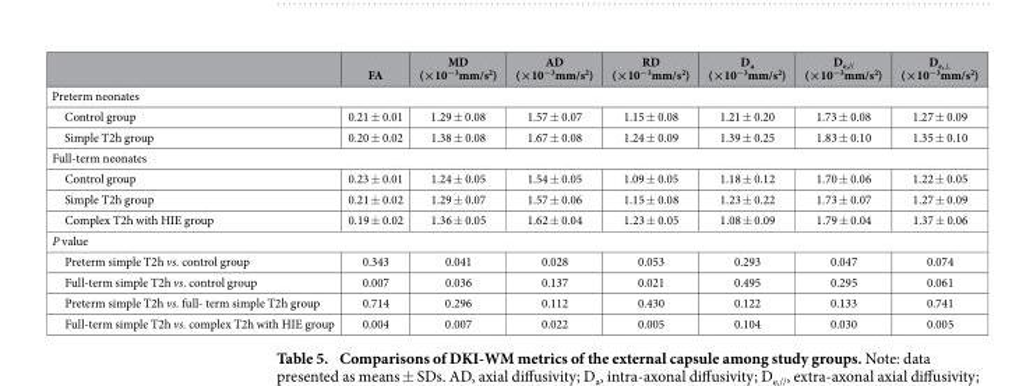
<table><thead><tr><td></td><td>FA</td><td>MD (×10<sup>−3</sup>mm/s<sup>2</sup>)</td><td>AD (×10<sup>−3</sup>mm/s<sup>2</sup>)</td><td>RD (×10<sup>−3</sup>mm/s<sup>2</sup>)</td><td>D<sub>a</sub> (×10<sup>−3</sup>mm/s<sup>2</sup>)</td><td>D<sub>e,//</sub> (×10<sup>−3</sup>mm/s<sup>2</sup>)</td><td>D<sub>e,⊥</sub> (×10<sup>−3</sup>mm/s<sup>2</sup>)</td></tr></thead><tbody><tr><td colspan="8">Preterm neonates</td></tr><tr><td>Control group</td><td>0.21 ± 0.01</td><td>1.29 ± 0.08</td><td>1.57 ± 0.07</td><td>1.15 ± 0.08</td><td>1.21 ± 0.20</td><td>1.73 ± 0.08</td><td>1.27 ± 0.09</td></tr><tr><td>Simple T2h group</td><td>0.20 ± 0.02</td><td>1.38 ± 0.08</td><td>1.67 ± 0.08</td><td>1.24 ± 0.09</td><td>1.39 ± 0.25</td><td>1.83 ± 0.10</td><td>1.35 ± 0.10</td></tr><tr><td colspan="8">Full-term neonates</td></tr><tr><td>Control group</td><td>0.23 ± 0.01</td><td>1.24 ± 0.05</td><td>1.54 ± 0.05</td><td>1.09 ± 0.05</td><td>1.18 ± 0.12</td><td>1.70 ± 0.06</td><td>1.22 ± 0.05</td></tr><tr><td>Simple T2h group</td><td>0.21 ± 0.02</td><td>1.29 ± 0.07</td><td>1.57 ± 0.06</td><td>1.15 ± 0.08</td><td>1.23 ± 0.22</td><td>1.73 ± 0.07</td><td>1.27 ± 0.09</td></tr><tr><td>Complex T2h with HIE group</td><td>0.19 ± 0.02</td><td>1.36 ± 0.05</td><td>1.62 ± 0.04</td><td>1.23 ± 0.05</td><td>1.08 ± 0.09</td><td>1.79 ± 0.04</td><td>1.37 ± 0.06</td></tr><tr><td colspan="8">P value</td></tr><tr><td>Preterm simple T2h vs. control group</td><td>0.343</td><td>0.041</td><td>0.028</td><td>0.053</td><td>0.293</td><td>0.047</td><td>0.074</td></tr><tr><td>Full-term simple T2h vs. control group</td><td>0.007</td><td>0.036</td><td>0.137</td><td>0.021</td><td>0.495</td><td>0.295</td><td>0.061</td></tr><tr><td>Preterm simple T2h vs. full- term simple T2h group</td><td>0.714</td><td>0.296</td><td>0.112</td><td>0.430</td><td>0.122</td><td>0.133</td><td>0.741</td></tr><tr><td>Full-term simple T2h vs. complex T2h with HIE group</td><td>0.004</td><td>0.007</td><td>0.022</td><td>0.005</td><td>0.104</td><td>0.030</td><td>0.005</td></tr></tbody></table>